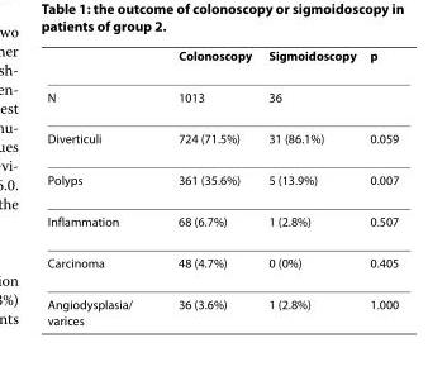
<table><thead><tr><td></td><td>Colonoscopy</td><td>Sigmoidoscopy</td><td>p</td></tr></thead><tbody><tr><td>N</td><td>1013</td><td>36</td><td></td></tr><tr><td>Diverticuli</td><td>724 (71.5%)</td><td>31 (86.1%)</td><td>0.059</td></tr><tr><td>Polyps</td><td>361 (35.6%)</td><td>5 (13.9%)</td><td>0.007</td></tr><tr><td>Inflammation</td><td>68 (6.7%)</td><td>1 (2.8%)</td><td>0.507</td></tr><tr><td>Carcinoma</td><td>48 (4.7%)</td><td>0 (0%)</td><td>0.405</td></tr><tr><td>Angiodysplasia/ varices</td><td>36 (3.6%)</td><td>1 (2.8%)</td><td>1.000</td></tr></tbody></table>